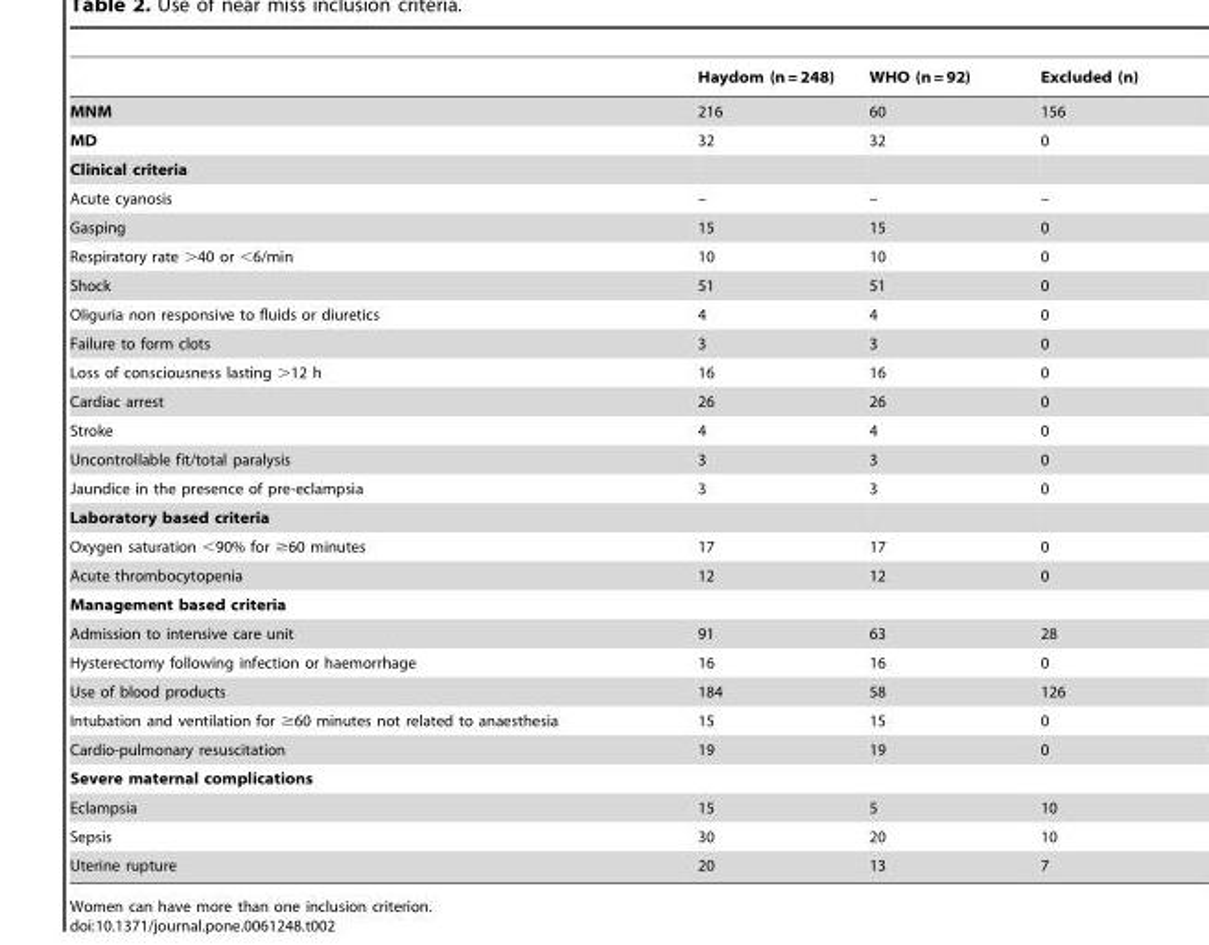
<table><thead><tr><td></td><td>Haydom (n = 248)</td><td>WHO (n = 92)</td><td>Excluded (n)</td></tr></thead><tbody><tr><td>MNM</td><td>216</td><td>60</td><td>156</td></tr><tr><td>MD</td><td>32</td><td>32</td><td>0</td></tr><tr><td colspan="4">Clinical criteria</td></tr><tr><td>Acute cyanosis</td><td>–</td><td>–</td><td>–</td></tr><tr><td>Gasping</td><td>15</td><td>15</td><td>0</td></tr><tr><td>Respiratory rate &gt;40 or &lt;6/min</td><td>10</td><td>10</td><td>0</td></tr><tr><td>Shock</td><td>51</td><td>51</td><td>0</td></tr><tr><td>Oliguria non responsive to fluids or diuretics</td><td>4</td><td>4</td><td>0</td></tr><tr><td>Failure to form clots</td><td>3</td><td>3</td><td>0</td></tr><tr><td>Loss of consciousness lasting &gt;12 h</td><td>16</td><td>16</td><td>0</td></tr><tr><td>Cardiac arrest</td><td>26</td><td>26</td><td>0</td></tr><tr><td>Stroke</td><td>4</td><td>4</td><td>0</td></tr><tr><td>Uncontrollable fit/total paralysis</td><td>3</td><td>3</td><td>0</td></tr><tr><td>Jaundice in the presence of pre-eclampsia</td><td>3</td><td>3</td><td>0</td></tr><tr><td colspan="4">Laboratory based criteria</td></tr><tr><td>Oxygen saturation &lt;90% for ≥60 minutes</td><td>17</td><td>17</td><td>0</td></tr><tr><td>Acute thrombocytopenia</td><td>12</td><td>12</td><td>0</td></tr><tr><td colspan="4">Management based criteria</td></tr><tr><td>Admission to intensive care unit</td><td>91</td><td>63</td><td>28</td></tr><tr><td>Hysterectomy following infection or haemorrhage</td><td>16</td><td>16</td><td>0</td></tr><tr><td>Use of blood products</td><td>184</td><td>58</td><td>126</td></tr><tr><td>Intubation and ventilation for ≥60 minutes not related to anaesthesia</td><td>15</td><td>15</td><td>0</td></tr><tr><td>Cardio-pulmonary resuscitation</td><td>19</td><td>19</td><td>0</td></tr><tr><td colspan="4">Severe maternal complications</td></tr><tr><td>Eclampsia</td><td>15</td><td>5</td><td>10</td></tr><tr><td>Sepsis</td><td>30</td><td>20</td><td>10</td></tr><tr><td>Uterine rupture</td><td>20</td><td>13</td><td>7</td></tr></tbody></table>